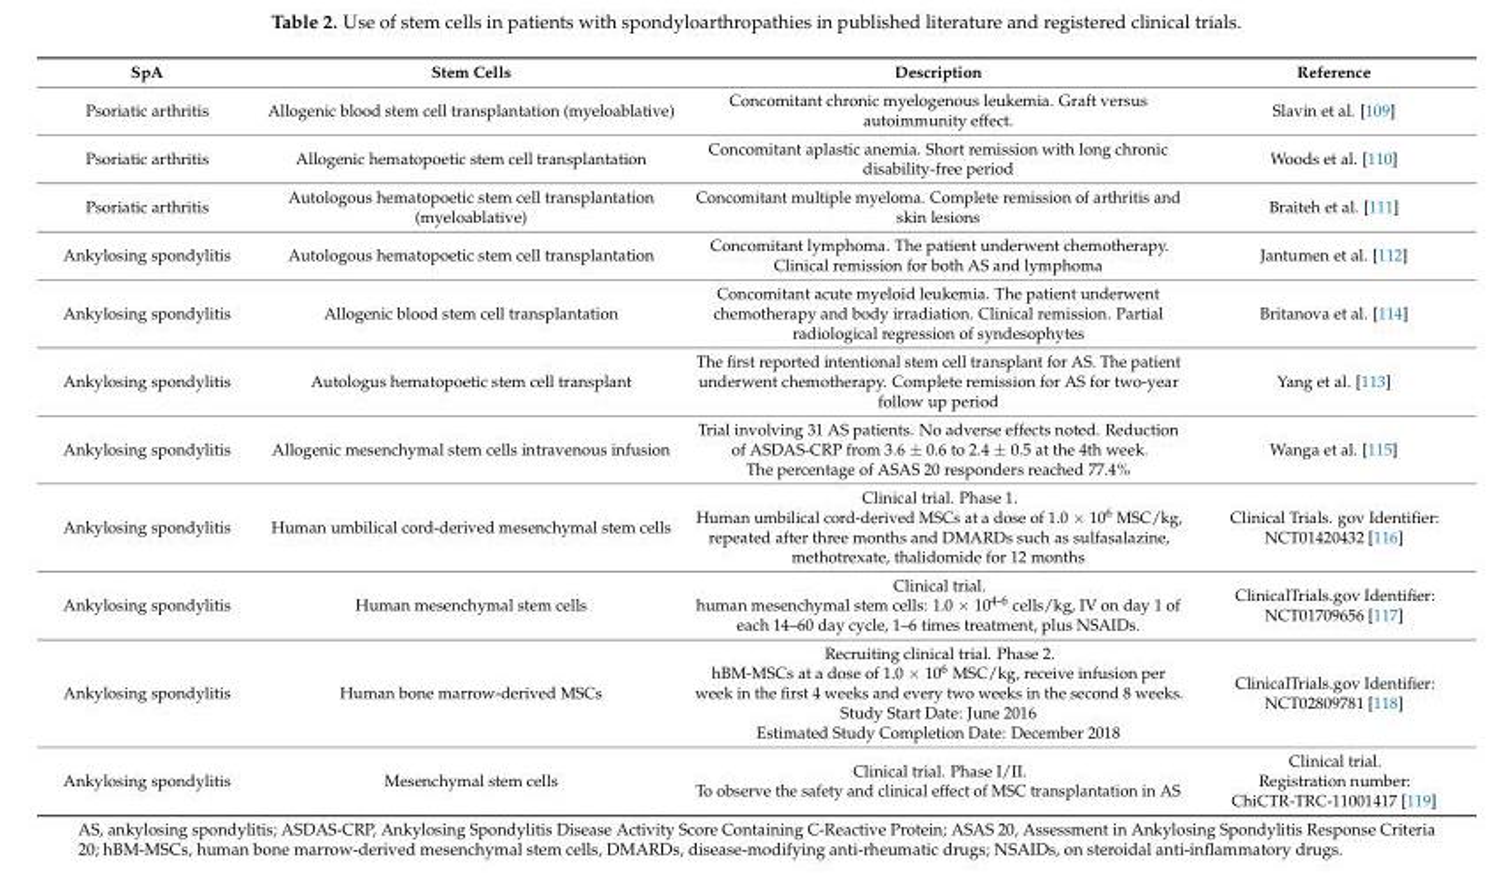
<table><thead><tr><td>SpA</td><td>Stem Cells</td><td>Description</td><td>Reference</td></tr></thead><tbody><tr><td>Psoriatic arthritis</td><td>Allogenic blood stem cell transplantation (myeloablative)</td><td>Concomitant chronic myelogenous leukemia. Graft versus autoimmunity effect.</td><td>Slavin et al. [109]</td></tr><tr><td>Psoriatic arthritis</td><td>Allogenic hematopoetic stem cell transplantation</td><td>Concomitant aplastic anemia. Short remission with long chronic disability-free period</td><td>Woods et al. [110]</td></tr><tr><td>Psoriatic arthritis</td><td>Autologous hematopoetic stem cell transplantation (myeloablative)</td><td>Concomitant multiple myeloma. Complete remission of arthritis and skin lesions</td><td>Braiteh et al. [111]</td></tr><tr><td>Ankylosing spondylitis</td><td>Autologous hematopoetic stem cell transplantation</td><td>Concomitant lymphoma. The patient underwent chemotherapy. Clinical remission for both AS and lymphoma</td><td>Jantumen et al. [112]</td></tr><tr><td>Ankylosing spondylitis</td><td>Allogenic blood stem cell transplantation</td><td>Concomitant acute myeloid leukemia. The patient underwent chemotherapy and body irradiation. Clinical remission. Partial radiological regression of syndesophytes</td><td>Britanova et al. [114]</td></tr><tr><td>Ankylosing spondylitis</td><td>Autologus hematopoetic stem cell transplant</td><td>The first reported intentional stem cell transplant for AS. The patient underwent chemotherapy. Complete remission for AS for two-year follow up period</td><td>Yang et al. [113]</td></tr><tr><td>Ankylosing spondylitis</td><td>Allogenic mesenchymal stem cells intravenous infusion</td><td>Trial involving 31 AS patients. No adverse effects noted. Reduction of ASDAS-CRP from 3.6 ± 0.6 to 2.4 ± 0.5 at the 4th week. The percentage of ASAS 20 responders reached 77.4%</td><td>Wanga et al. [115]</td></tr><tr><td>Ankylosing spondylitis</td><td>Human umbilical cord-derived mesenchymal stem cells</td><td>Clinical trial. Phase 1. Human umbilical cord-derived MSCs at a dose of 1.0 × 10<sup>6</sup> MSC/kg, repeated after three months and DMARDs such as sulfasalazine, methotrexate, thalidomide for 12 months</td><td>Clinical Trials. gov Identifier: NCT01420432 [116]</td></tr><tr><td>Ankylosing spondylitis</td><td>Human mesenchymal stem cells</td><td>Clinical trial. human mesenchymal stem cells: 1.0 × 10<sup>4-6</sup> cells/kg, IV on day 1 of each 14–60 day cycle, 1–6 times treatment, plus NSAIDs.</td><td>ClinicalTrials.gov Identifier: NCT01709656 [117]</td></tr><tr><td>Ankylosing spondylitis</td><td>Human bone marrow-derived MSCs</td><td>Recruiting clinical trial. Phase 2. hBM-MSCs at a dose of 1.0 × 10<sup>6</sup> MSC/kg, receive infusion per week in the first 4 weeks and every two weeks in the second 8 weeks. Study Start Date: June 2016 Estimated Study Completion Date: December 2018</td><td>ClinicalTrials.gov Identifier: NCT02809781 [118]</td></tr><tr><td>Ankylosing spondylitis</td><td>Mesenchymal stem cells</td><td>Clinical trial. Phase I/II. To observe the safety and clinical effect of MSC transplantation in AS</td><td>Clinical trial. Registration number: ChiCTR-TRC-11001417 [119]</td></tr></tbody></table>